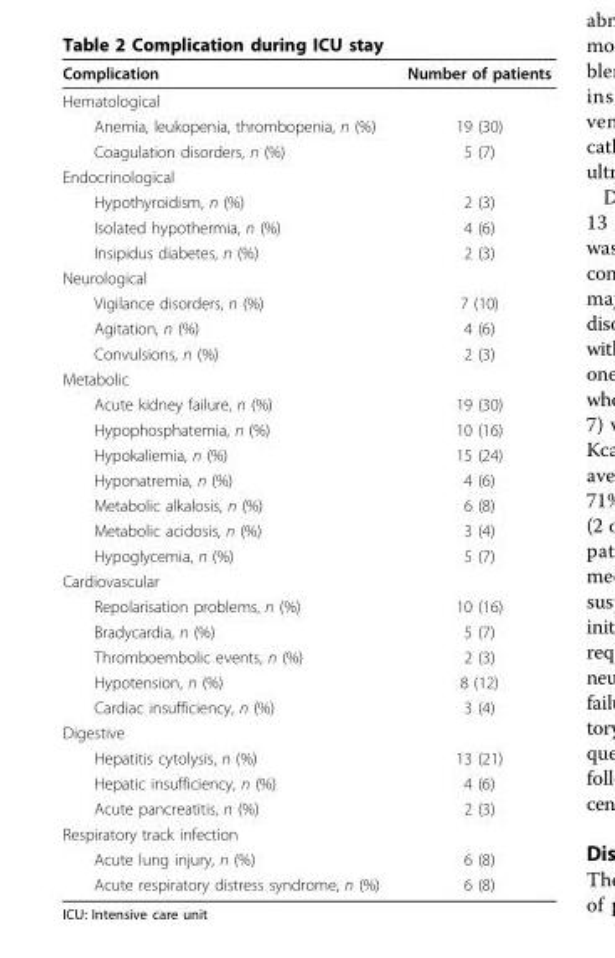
<table><thead><tr><td>Complication</td><td>Number of patients</td></tr></thead><tbody><tr><td colspan="2">Hematological</td></tr><tr><td>Anemia, leukopenia, thrombopenia, n (%)</td><td>19 (30)</td></tr><tr><td>Coagulation disorders, n (%)</td><td>5 (7)</td></tr><tr><td colspan="2">Endocrinological</td></tr><tr><td>Hypothyroidism, n (%)</td><td>2 (3)</td></tr><tr><td>Isolated hypothermia, n (%)</td><td>4 (6)</td></tr><tr><td>Insipidus diabetes, n (%)</td><td>2 (3)</td></tr><tr><td colspan="2">Neurological</td></tr><tr><td>Vigilance disorders, n (%)</td><td>7 (10)</td></tr><tr><td>Agitation, n (%)</td><td>4 (6)</td></tr><tr><td>Convulsions, n (%)</td><td>2 (3)</td></tr><tr><td colspan="2">Metabolic</td></tr><tr><td>Acute kidney failure, n (%)</td><td>19 (30)</td></tr><tr><td>Hypophosphatemia, n (%)</td><td>10 (16)</td></tr><tr><td>Hypokaliemia, n (%)</td><td>15 (24)</td></tr><tr><td>Hyponatremia, n (%)</td><td>4 (6)</td></tr><tr><td>Metabolic alkalosis, n (%)</td><td>6 (8)</td></tr><tr><td>Metabolic acidosis, n (%)</td><td>3 (4)</td></tr><tr><td>Hypoglycemia, n (%)</td><td>5 (7)</td></tr><tr><td colspan="2">Cardiovascular</td></tr><tr><td>Repolarisation problems, n (%)</td><td>10 (16)</td></tr><tr><td>Bradycardia, n (%)</td><td>5 (7)</td></tr><tr><td>Thromboembolic events, n (%)</td><td>2 (3)</td></tr><tr><td>Hypotension, n (%)</td><td>8 (12)</td></tr><tr><td>Cardiac insufficiency, n (%)</td><td>3 (4)</td></tr><tr><td colspan="2">Digestive</td></tr><tr><td>Hepatitis cytolysis, n (%)</td><td>13 (21)</td></tr><tr><td>Hepatic insufficiency, n (%)</td><td>4 (6)</td></tr><tr><td>Acute pancreatitis, n (%)</td><td>2 (3)</td></tr><tr><td colspan="2">Respiratory track infection</td></tr><tr><td>Acute lung injury, n (%)</td><td>6 (8)</td></tr><tr><td>Acute respiratory distress syndrome, n (%)</td><td>6 (8)</td></tr></tbody></table>